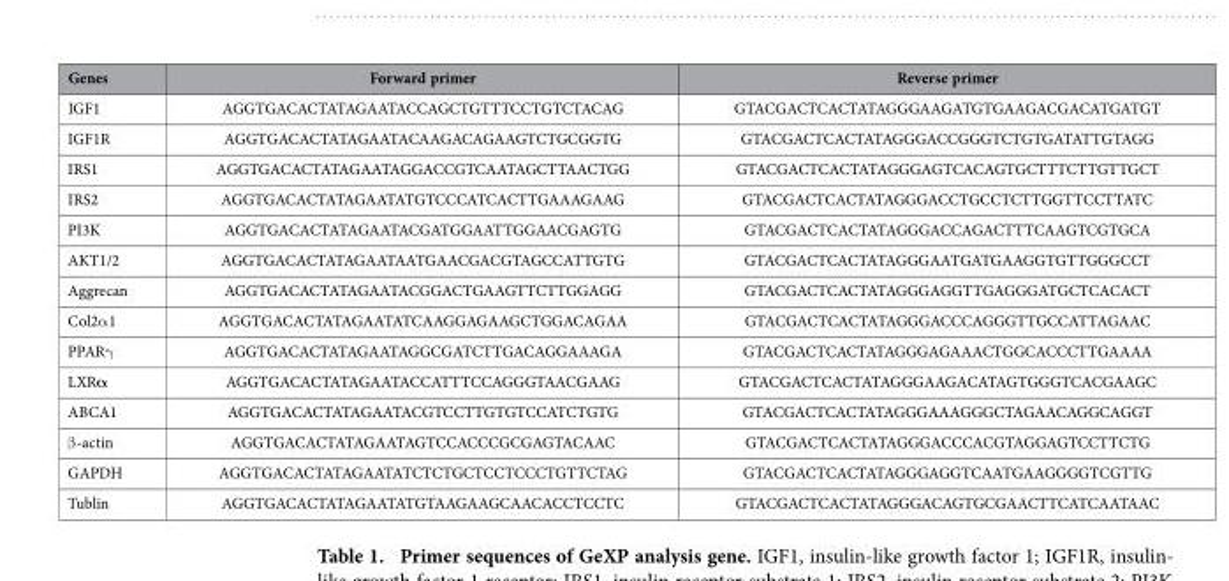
<table><thead><tr><td>Genes</td><td>Forward primer</td><td>Reverse primer</td></tr></thead><tbody><tr><td>IGF1</td><td>AGGTGACACTATAGAATACCAGCTGTTTCCTGTCTACAG</td><td>GTACGACTCACTATAGGGAAGATGTGAAGACGACATGATGT</td></tr><tr><td>IGF1R</td><td>AGGTGACACTATAGAATACAAGACAGAAGTCTGCGGTG</td><td>GTACGACTCACTATAGGGACCGGGTCTGTGATATTGTAGG</td></tr><tr><td>IRS1</td><td>AGGTGACACTATAGAATAGGACCGTCAATAGCTTAACTGG</td><td>GTACGACTCACTATAGGGAGTCACAGTGCTTTCTTGTTGCT</td></tr><tr><td>IRS2</td><td>AGGTGACACTATAGAATATGTCCCATCACTTGAAAGAAG</td><td>GTACGACTCACTATAGGGACCTGCCTCTTGGTTCCTTATC</td></tr><tr><td>PI3K</td><td>AGGTGACACTATAGAATACGATGGAATTGGAACGAGTG</td><td>GTACGACTCACTATAGGGACCAGACTTTCAAGTCGTGCA</td></tr><tr><td>AKT1/2</td><td>AGGTGACACTATAGAATAATGAACGACGTAGCCATTGTG</td><td>GTACGACTCACTATAGGGAATGATGAAGGTGTTGGGCCT</td></tr><tr><td>Aggrecan</td><td>AGGTGACACTATAGAATACGGACTGAAGTTCTTGGAGG</td><td>GTACGACTCACTATAGGGAGGTTGAGGGATGCTCACACT</td></tr><tr><td>Col2α 1</td><td>AGGTGACACTATAGAATATCAAGGAGAAGCTGGACAGAA</td><td>GTACGACTCACTATAGGGACCCAGGGTTGCCATTAGAAC</td></tr><tr><td>PPARγ</td><td>AGGTGACACTATAGAATAGGCGATCTTGACAGGAAAGA</td><td>GTACGACTCACTATAGGGAGAAACTGGCACCCTTGAAAA</td></tr><tr><td>LXRα</td><td>AGGTGACACTATAGAATACCATTTCCAGGGTAACGAAG</td><td>GTACGACTCACTATAGGGAAGACATAGTGGGTCACGAAGC</td></tr><tr><td>ABCA1</td><td>AGGTGACACTATAGAATACGTCCTTGTGTCCATCTGTG</td><td>GTACGACTCACTATAGGGAAAGGGCTAGAACAGGCAGGT</td></tr><tr><td>β -actin</td><td>AGGTGACACTATAGAATAGTCCACCCGCGAGTACAAC</td><td>GTACGACTCACTATAGGGACCCACGTAGGAGTCCTTCTG</td></tr><tr><td>GAPDH</td><td>AGGTGACACTATAGAATATCTCTGCTCCTCCCTGTTCTAG</td><td>GTACGACTCACTATAGGGAGGTCAATGAAGGGGTCGTTG</td></tr><tr><td>Tublin</td><td>AGGTGACACTATAGAATATGTAAGAAGCAACACCTCCTC</td><td>GTACGACTCACTATAGGGACAGTGCGAACTTCATCAATAAC</td></tr></tbody></table>